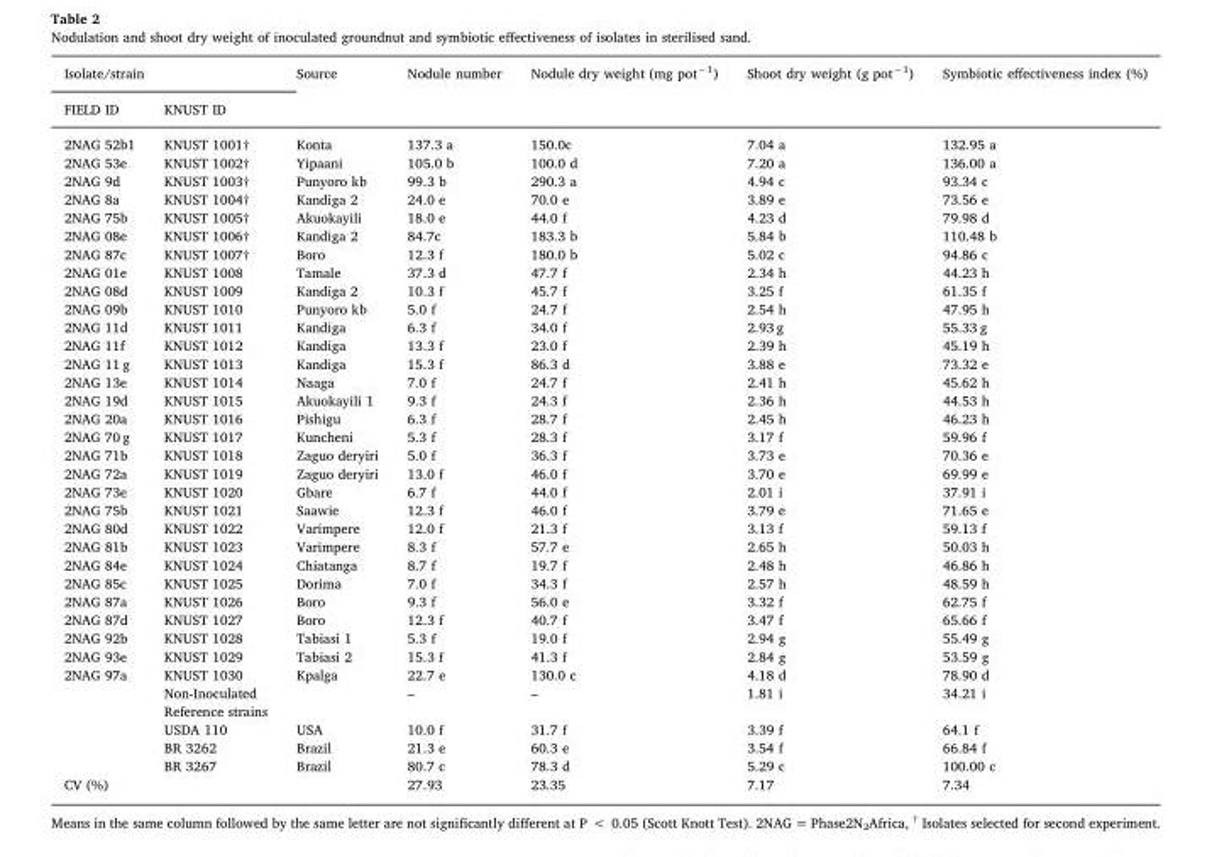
<table><thead><tr><td colspan="2">Isolate/strain</td><td rowspan="2">Source</td><td rowspan="2">Nodule number</td><td rowspan="2">Nodule dry weight (mg pot<sup>−1</sup>)</td><td rowspan="2">Shoot dry weight (g pot<sup>−1</sup>)</td><td rowspan="2">Symbiotic effectiveness index (%)</td></tr><tr><td>FIELD ID</td><td>KNUST ID</td></tr></thead><tbody><tr><td>2NAG 52b1</td><td>KNUST 1001†</td><td>Konta</td><td>137.3 a</td><td>150.0c</td><td>7.04 a</td><td>132.95 a</td></tr><tr><td>2NAG 53e</td><td>KNUST 1002†</td><td>Yipaani</td><td>105.0 b</td><td>100.0 d</td><td>7.20 a</td><td>136.00 a</td></tr><tr><td>2NAG 9d</td><td>KNUST 1003†</td><td>Punyoro kb</td><td>99.3 b</td><td>290.3 a</td><td>4.94 c</td><td>93.34 c</td></tr><tr><td>2NAG 8a</td><td>KNUST 1004†</td><td>Kandiga 2</td><td>24.0 e</td><td>70.0 e</td><td>3.89 e</td><td>73.56 e</td></tr><tr><td>2NAG 75b</td><td>KNUST 1005†</td><td>Akuokayili</td><td>18.0 e</td><td>44.0 f</td><td>4.23 d</td><td>79.98 d</td></tr><tr><td>2NAG 08e</td><td>KNUST 1006†</td><td>Kandiga 2</td><td>84.7c</td><td>183.3 b</td><td>5.84 b</td><td>110.48 b</td></tr><tr><td>2NAG 87c</td><td>KNUST 1007†</td><td>Boro</td><td>12.3 f</td><td>180.0 b</td><td>5.02 c</td><td>94.86 c</td></tr><tr><td>2NAG 01e</td><td>KNUST 1008</td><td>Tamale</td><td>37.3 d</td><td>47.7 f</td><td>2.34 h</td><td>44.23 h</td></tr><tr><td>2NAG 08d</td><td>KNUST 1009</td><td>Kandiga 2</td><td>10.3 f</td><td>45.7 f</td><td>3.25 f</td><td>61.35 f</td></tr><tr><td>2NAG 09b</td><td>KNUST 1010</td><td>Punyoro kb</td><td>5.0 f</td><td>24.7 f</td><td>2.54 h</td><td>47.95 h</td></tr><tr><td>2NAG 11d</td><td>KNUST 1011</td><td>Kandiga</td><td>6.3 f</td><td>34.0 f</td><td>2.93 g</td><td>55.33 g</td></tr><tr><td>2NAG 11f</td><td>KNUST 1012</td><td>Kandiga</td><td>13.3 f</td><td>23.0 f</td><td>2.39 h</td><td>45.19 h</td></tr><tr><td>2NAG 11 g</td><td>KNUST 1013</td><td>Kandiga</td><td>15.3 f</td><td>86.3 d</td><td>3.88 e</td><td>73.32 e</td></tr><tr><td>2NAG 13e</td><td>KNUST 1014</td><td>Naaga</td><td>7.0 f</td><td>24.7 f</td><td>2.41 h</td><td>45.62 h</td></tr><tr><td>2NAG 19d</td><td>KNUST 1015</td><td>Akuokayili 1</td><td>9.3 f</td><td>24.3 f</td><td>2.36 h</td><td>44.53 h</td></tr><tr><td>2NAG 20a</td><td>KNUST 1016</td><td>Pishigu</td><td>6.3 f</td><td>28.7 f</td><td>2.45 h</td><td>46.23 h</td></tr><tr><td>2NAG 70 g</td><td>KNUST 1017</td><td>Kuncheni</td><td>5.3 f</td><td>28.3 f</td><td>3.17 f</td><td>59.96 f</td></tr><tr><td>2NAG 71b</td><td>KNUST 1018</td><td>Zaguo deryiri</td><td>5.0 f</td><td>36.3 f</td><td>3.73 e</td><td>70.36 e</td></tr><tr><td>2NAG 72a</td><td>KNUST 1019</td><td>Zaguo deryiri</td><td>13.0 f</td><td>46.0 f</td><td>3.70 e</td><td>69.99 e</td></tr><tr><td>2NAG 73e</td><td>KNUST 1020</td><td>Gbare</td><td>6.7 f</td><td>44.0 f</td><td>2.01 i</td><td>37.91 i</td></tr><tr><td>2NAG 75b</td><td>KNUST 1021</td><td>Saawie</td><td>12.3 f</td><td>46.0 f</td><td>3.79 e</td><td>71.65 e</td></tr><tr><td>2NAG 80d</td><td>KNUST 1022</td><td>Varimpere</td><td>12.0 f</td><td>21.3 f</td><td>3.13 f</td><td>59.13 f</td></tr><tr><td>2NAG 81b</td><td>KNUST 1023</td><td>Varimpere</td><td>8.3 f</td><td>57.7 e</td><td>2.65 h</td><td>50.03 h</td></tr><tr><td>2NAG 84e</td><td>KNUST 1024</td><td>Chiatanga</td><td>8.7 f</td><td>19.7 f</td><td>2.48 h</td><td>46.86 h</td></tr><tr><td>2NAG 85c</td><td>KNUST 1025</td><td>Dorima</td><td>7.0 f</td><td>34.3 f</td><td>2.57 h</td><td>48.59 h</td></tr><tr><td>2NAG 87a</td><td>KNUST 1026</td><td>Boro</td><td>9.3 f</td><td>56.0 e</td><td>3.32 f</td><td>62.75 f</td></tr><tr><td>2NAG 87d</td><td>KNUST 1027</td><td>Boro</td><td>12.3 f</td><td>40.7 f</td><td>3.47 f</td><td>65.66 f</td></tr><tr><td>2NAG 92b</td><td>KNUST 1028</td><td>Tabiasi 1</td><td>5.3 f</td><td>19.0 f</td><td>2.94 g</td><td>55.49 g</td></tr><tr><td>2NAG 93e</td><td>KNUST 1029</td><td>Tabiasi 2</td><td>15.3 f</td><td>41.3 f</td><td>2.84 g</td><td>53.59 g</td></tr><tr><td rowspan="6">2NAG 97a</td><td>KNUST 1030</td><td>Kpalga</td><td>22.7 e</td><td>130.0 c</td><td>4.18 d</td><td>78.90 d</td></tr><tr><td>Non-Inoculated</td><td></td><td>–</td><td>–</td><td>1.81 i</td><td>34.21 i</td></tr><tr><td>Reference strains</td><td></td><td></td><td></td><td></td><td></td></tr><tr><td>USDA 110</td><td>USA</td><td>10.0 f</td><td>31.7 f</td><td>3.39 f</td><td>64.1 f</td></tr><tr><td>BR 3262</td><td>Brazil</td><td>21.3 e</td><td>60.3 e</td><td>3.54 f</td><td>66.84 f</td></tr><tr><td>BR 3267</td><td>Brazil</td><td>80.7 c</td><td>78.3 d</td><td>5.29 c</td><td>100.00 c</td></tr><tr><td colspan="3">CV (%)</td><td>27.93</td><td>23.35</td><td>7.17</td><td>7.34</td></tr></tbody></table>